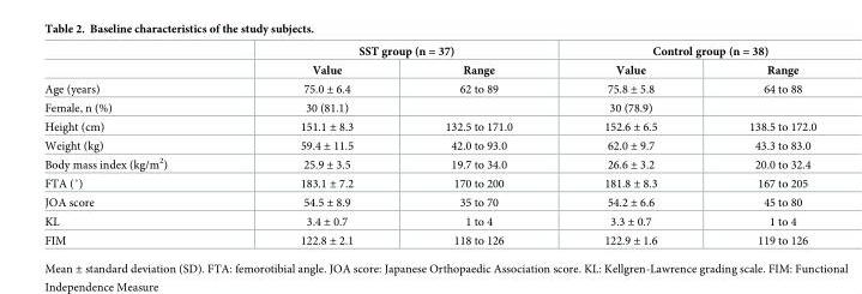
<table><thead><tr><td rowspan="2"></td><td colspan="2">SST group (n = 37)</td><td colspan="2">Control group (n = 38)</td></tr><tr><td>Value</td><td>Range</td><td>Value</td><td>Range</td></tr></thead><tbody><tr><td>Age (years)</td><td>75.0 ± 6.4</td><td>62 to 89</td><td>75.8 ± 5.8</td><td>64 to 88</td></tr><tr><td>Female, n (%)</td><td>30 (81.1)</td><td></td><td>30 (78.9)</td><td></td></tr><tr><td>Height (cm)</td><td>151.1 ± 8.3</td><td>132.5 to 171.0</td><td>152.6 ± 6.5</td><td>138.5 to 172.0</td></tr><tr><td>Weight (kg)</td><td>59.4 ± 11.5</td><td>42.0 to 93.0</td><td>62.0 ± 9.7</td><td>43.3 to 83.0</td></tr><tr><td>Body mass index (kg/m<sup>2</sup>)</td><td>25.9 ± 3.5</td><td>19.7 to 34.0</td><td>26.6 ± 3.2</td><td>20.0 to 32.4</td></tr><tr><td>FTA (˚)</td><td>183.1 ± 7.2</td><td>170 to 200</td><td>181.8 ± 8.3</td><td>167 to 205</td></tr><tr><td>JOA score</td><td>54.5 ± 8.9</td><td>35 to 70</td><td>54.2 ± 6.6</td><td>45 to 80</td></tr><tr><td>KL</td><td>3.4 ± 0.7</td><td>1 to 4</td><td>3.3 ± 0.7</td><td>1 to 4</td></tr><tr><td>FIM</td><td>122.8 ± 2.1</td><td>118 to 126</td><td>122.9 ± 1.6</td><td>119 to 126</td></tr></tbody></table>